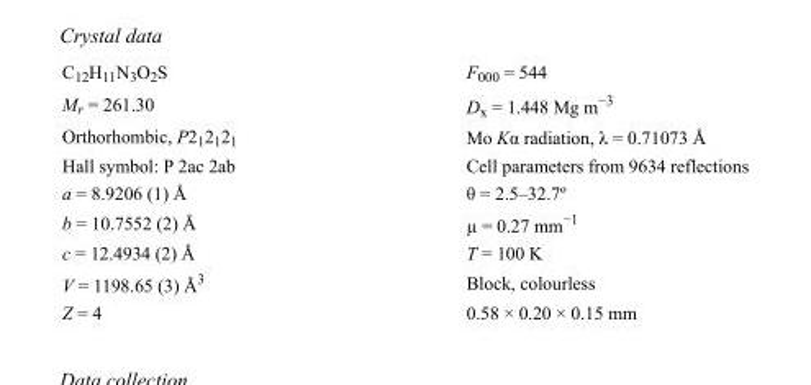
<table><tbody><tr><td>C<sub>12</sub>H<sub>11</sub>N<sub>3</sub>O<sub>2</sub>S</td><td>F000 = 544</td></tr><tr><td>M<sub>r</sub> = 261.30</td><td>D<sub>x</sub> = 1.448 Mg m<sup>−3</sup></td></tr><tr><td>Orthorhombic, P2<sub>1</sub>2<sub>1</sub>2<sub>1</sub></td><td>Mo Kα radiation, λ = 0.71073 Å</td></tr><tr><td>Hall symbol: P 2ac 2ab</td><td>Cell parameters from 9634 reflections</td></tr><tr><td>a = 8.9206 (1) Å</td><td>θ = 2.5–32.7º</td></tr><tr><td>b = 10.7552 (2) Å</td><td>µ = 0.27 mm<sup>−1</sup></td></tr><tr><td>c = 12.4934 (2) Å</td><td>T = 100 K</td></tr><tr><td>V = 1198.65 (3) Å<sup>3</sup></td><td>Block, colourless</td></tr><tr><td>Z = 4</td><td>0.58 × 0.20 × 0.15 mm</td></tr></tbody></table>